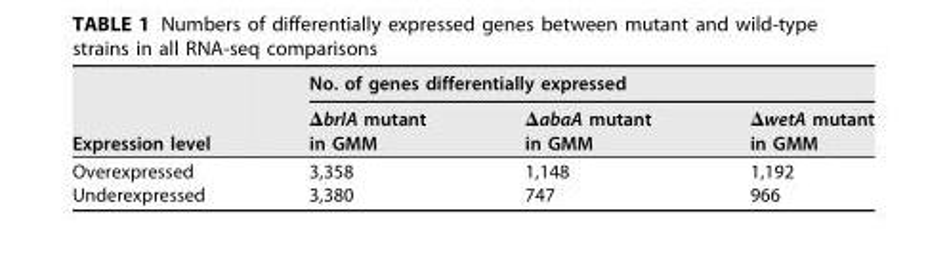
<table><thead><tr><td rowspan="2">Expression level</td><td colspan="3">No. of genes differentially expressed</td></tr><tr><td>ΔbrlA mutant in GMM</td><td>ΔabaA mutant in GMM</td><td>ΔwetA mutant in GMM</td></tr></thead><tbody><tr><td>Overexpressed</td><td>3,358</td><td>1,148</td><td>1,192</td></tr><tr><td>Underexpressed</td><td>3,380</td><td>747</td><td>966</td></tr></tbody></table>